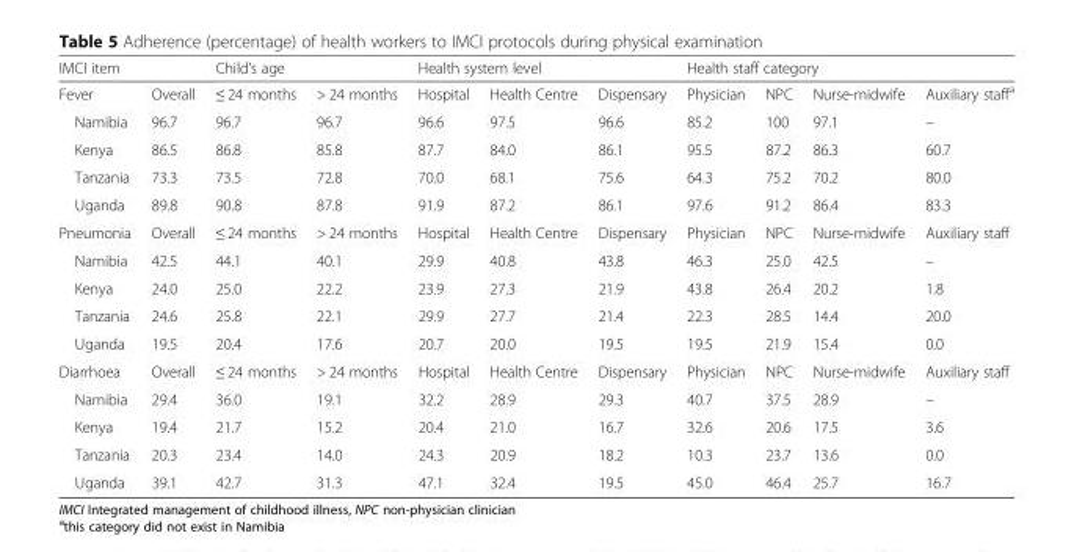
<table><thead><tr><td rowspan="2">IMCI item Fever</td><td rowspan="2">Overall</td><td colspan="2">Child’s age</td><td colspan="3">Health system level</td><td colspan="4">Health staff category</td></tr><tr><td>≤ 24 months</td><td>&gt; 24 months</td><td>Hospital</td><td>Health Centre</td><td>Dispensary</td><td>Physician</td><td>NPC</td><td>Nurse-midwife</td><td>Auxiliary staff<sup>a</sup></td></tr></thead><tbody><tr><td>Namibia</td><td>96.7</td><td>96.7</td><td>96.7</td><td>96.6</td><td>97.5</td><td>96.6</td><td>85.2</td><td>100</td><td>97.1</td><td>–</td></tr><tr><td>Kenya</td><td>86.5</td><td>86.8</td><td>85.8</td><td>87.7</td><td>84.0</td><td>86.1</td><td>95.5</td><td>87.2</td><td>86.3</td><td>60.7</td></tr><tr><td>Tanzania</td><td>73.3</td><td>73.5</td><td>72.8</td><td>70.0</td><td>68.1</td><td>75.6</td><td>64.3</td><td>75.2</td><td>70.2</td><td>80.0</td></tr><tr><td>Uganda</td><td>89.8</td><td>90.8</td><td>87.8</td><td>91.9</td><td>87.2</td><td>86.1</td><td>97.6</td><td>91.2</td><td>86.4</td><td>83.3</td></tr><tr><td>Pneumonia</td><td>Overall</td><td>≤ 24 months</td><td>&gt; 24 months</td><td>Hospital</td><td>Health Centre</td><td>Dispensary</td><td>Physician</td><td>NPC</td><td>Nurse-midwife</td><td>Auxiliary staff</td></tr><tr><td>Namibia</td><td>42.5</td><td>44.1</td><td>40.1</td><td>29.9</td><td>40.8</td><td>43.8</td><td>46.3</td><td>25.0</td><td>42.5</td><td>–</td></tr><tr><td>Kenya</td><td>24.0</td><td>25.0</td><td>22.2</td><td>23.9</td><td>27.3</td><td>21.9</td><td>43.8</td><td>26.4</td><td>20.2</td><td>1.8</td></tr><tr><td>Tanzania</td><td>24.6</td><td>25.8</td><td>22.1</td><td>29.9</td><td>27.7</td><td>21.4</td><td>22.3</td><td>28.5</td><td>14.4</td><td>20.0</td></tr><tr><td>Uganda</td><td>19.5</td><td>20.4</td><td>17.6</td><td>20.7</td><td>20.0</td><td>19.5</td><td>19.5</td><td>21.9</td><td>15.4</td><td>0.0</td></tr><tr><td>Diarrhoea</td><td>Overall</td><td>≤ 24 months</td><td>&gt; 24 months</td><td>Hospital</td><td>Health Centre</td><td>Dispensary</td><td>Physician</td><td>NPC</td><td>Nurse-midwife</td><td>Auxiliary staff</td></tr><tr><td>Namibia</td><td>29.4</td><td>36.0</td><td>19.1</td><td>32.2</td><td>28.9</td><td>29.3</td><td>40.7</td><td>37.5</td><td>28.9</td><td>–</td></tr><tr><td>Kenya</td><td>19.4</td><td>21.7</td><td>15.2</td><td>20.4</td><td>21.0</td><td>16.7</td><td>32.6</td><td>20.6</td><td>17.5</td><td>3.6</td></tr><tr><td>Tanzania</td><td>20.3</td><td>23.4</td><td>14.0</td><td>24.3</td><td>20.9</td><td>18.2</td><td>10.3</td><td>23.7</td><td>13.6</td><td>0.0</td></tr><tr><td>Uganda</td><td>39.1</td><td>42.7</td><td>31.3</td><td>47.1</td><td>32.4</td><td>19.5</td><td>45.0</td><td>46.4</td><td>25.7</td><td>16.7</td></tr></tbody></table>